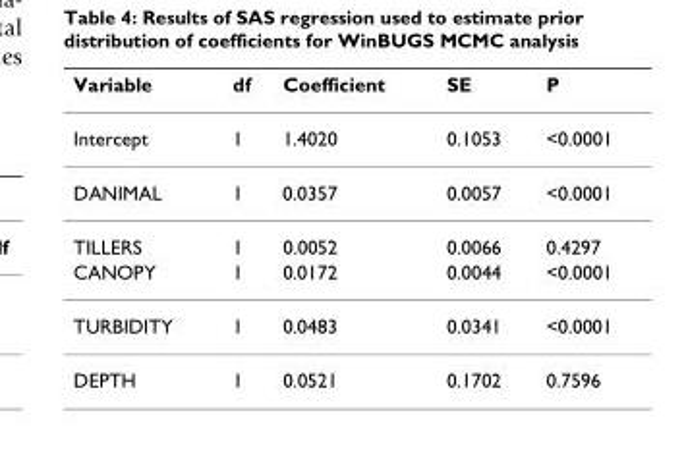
<table><thead><tr><td>Variable</td><td>df</td><td>Coefficient</td><td>SE</td><td>P</td></tr></thead><tbody><tr><td>Intercept</td><td>1</td><td>1.4020</td><td>0.1053</td><td>&lt;0.0001</td></tr><tr><td>DANIMAL</td><td>1</td><td>0.0357</td><td>0.0057</td><td>&lt;0.0001</td></tr><tr><td>TILLERS</td><td>1</td><td>0.0052</td><td>0.0066</td><td>0.4297</td></tr><tr><td>CANOPY</td><td>1</td><td>0.0172</td><td>0.0044</td><td>&lt;0.0001</td></tr><tr><td>TURBIDITY</td><td>1</td><td>0.0483</td><td>0.0341</td><td>&lt;0.0001</td></tr><tr><td>DEPTH</td><td>1</td><td>0.0521</td><td>0.1702</td><td>0.7596</td></tr></tbody></table>